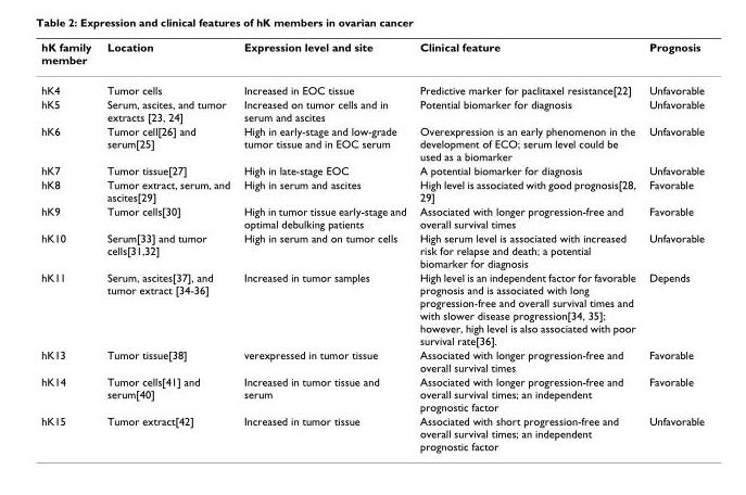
<table><thead><tr><td>hK family member</td><td>Location</td><td>Expression level and site</td><td>Clinical feature</td><td>Prognosis</td></tr></thead><tbody><tr><td>hK4</td><td>Tumor cells</td><td>Increased in EOC tissue</td><td>Predictive marker for paclitaxel resistance[22]</td><td>Unfavorable</td></tr><tr><td>hK5</td><td>Serum, ascites, and tumor extracts [23, 24]</td><td>Increased on tumor cells and in serum and ascites</td><td>Potential biomarker for diagnosis</td><td>Unfavorable</td></tr><tr><td>hK6</td><td>Tumor cell[26] and serum[25]</td><td>High in early-stage and low-grade tumor tissue and in EOC serum</td><td>Overexpression is an early phenomenon in the development of ECO; serum level could be used as a biomarker</td><td>Unfavorable</td></tr><tr><td>hK7</td><td>Tumor tissue[27]</td><td>High in late-stage EOC</td><td>A potential biomarker for diagnosis</td><td>Unfavorable</td></tr><tr><td>hK8</td><td>Tumor extract, serum, and ascites[29]</td><td>High in serum and ascites</td><td>High level is associated with good prognosis[28, 29]</td><td>Favorable</td></tr><tr><td>hK9</td><td>Tumor cells[30]</td><td>High in tumor tissue early-stage and optimal debulking patients</td><td>Associated with longer progression-free and overall survival times</td><td>Favorable</td></tr><tr><td>hK10</td><td>Serum[33] and tumor cells[31,32]</td><td>High in serum and on tumor cells</td><td>High serum level is associated with increased risk for relapse and death; a potential biomarker for diagnosis</td><td>Unfavorable</td></tr><tr><td>hK11</td><td>Serum, ascites[37], and tumor extract [34-36]</td><td>Increased in tumor samples</td><td>High level is an independent factor for favorable prognosis and is associated with long progression-free and overall survival times and with slower disease progression[34, 35]; however, high level is also associated with poor survival rate[36].</td><td>Depends</td></tr><tr><td>hK13</td><td>Tumor tissue[38]</td><td>verexpressed in tumor tissue</td><td>Associated with longer progression-free and overall survival times</td><td>Favorable</td></tr><tr><td>hK14</td><td>Tumor cells[41] and serum[40]</td><td>Increased in tumor tissue and serum</td><td>Associated with longer progression-free and overall survival times; an independent prognostic factor</td><td>Favorable</td></tr><tr><td>hK15</td><td>Tumor extract[42]</td><td>Increased in tumor tissue</td><td>Associated with short progression-free and overall survival times; an independent prognostic factor</td><td>Unfavorable</td></tr></tbody></table>